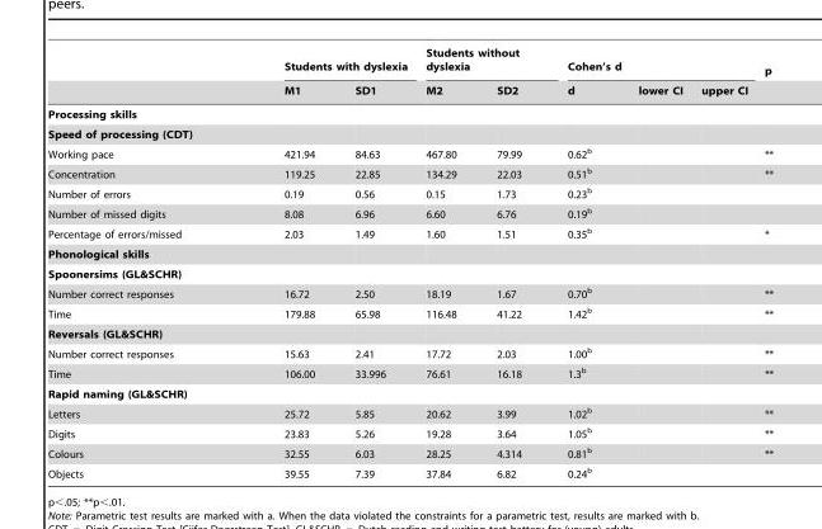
<table><thead><tr><td rowspan="2"></td><td colspan="2">Students with dyslexia</td><td colspan="2">Students without dyslexia</td><td colspan="3">Cohen’s d</td><td rowspan="2">p</td></tr><tr><td>M1</td><td>SD1</td><td>M2</td><td>SD2</td><td>d</td><td>lower CI</td><td>upper CI</td></tr></thead><tbody><tr><td colspan="9">Processing skills</td></tr><tr><td colspan="9">Speed of processing (CDT)</td></tr><tr><td>Working pace</td><td>421.94</td><td>84.63</td><td>467.80</td><td>79.99</td><td>0.62<sup>b</sup></td><td></td><td></td><td>**</td></tr><tr><td>Concentration</td><td>119.25</td><td>22.85</td><td>134.29</td><td>22.03</td><td>0.51<sup>b</sup></td><td></td><td></td><td>**</td></tr><tr><td>Number of errors</td><td>0.19</td><td>0.56</td><td>0.15</td><td>1.73</td><td>0.23<sup>b</sup></td><td></td><td></td><td></td></tr><tr><td>Number of missed digits</td><td>8.08</td><td>6.96</td><td>6.60</td><td>6.76</td><td>0.19<sup>b</sup></td><td></td><td></td><td></td></tr><tr><td>Percentage of errors/missed</td><td>2.03</td><td>1.49</td><td>1.60</td><td>1.51</td><td>0.35<sup>b</sup></td><td></td><td></td><td>*</td></tr><tr><td colspan="9">Phonological skills</td></tr><tr><td colspan="9">Spoonersims (GL&amp;SCHR)</td></tr><tr><td>Number correct responses</td><td>16.72</td><td>2.50</td><td>18.19</td><td>1.67</td><td>0.70<sup>b</sup></td><td></td><td></td><td>**</td></tr><tr><td>Time</td><td>179.88</td><td>65.98</td><td>116.48</td><td>41.22</td><td>1.42<sup>b</sup></td><td></td><td></td><td>**</td></tr><tr><td colspan="9">Reversals (GL&amp;SCHR)</td></tr><tr><td>Number correct responses</td><td>15.63</td><td>2.41</td><td>17.72</td><td>2.03</td><td>1.00<sup>b</sup></td><td></td><td></td><td>**</td></tr><tr><td>Time</td><td>106.00</td><td>33.996</td><td>76.61</td><td>16.18</td><td>1.3<sup>b</sup></td><td></td><td></td><td>**</td></tr><tr><td colspan="9">Rapid naming (GL&amp;SCHR)</td></tr><tr><td>Letters</td><td>25.72</td><td>5.85</td><td>20.62</td><td>3.99</td><td>1.02<sup>b</sup></td><td></td><td></td><td>**</td></tr><tr><td>Digits</td><td>23.83</td><td>5.26</td><td>19.28</td><td>3.64</td><td>1.05<sup>b</sup></td><td></td><td></td><td>**</td></tr><tr><td>Colours</td><td>32.55</td><td>6.03</td><td>28.25</td><td>4.314</td><td>0.81<sup>b</sup></td><td></td><td></td><td>**</td></tr><tr><td>Objects</td><td>39.55</td><td>7.39</td><td>37.84</td><td>6.82</td><td>0.24<sup>b</sup></td><td></td><td></td><td></td></tr></tbody></table>